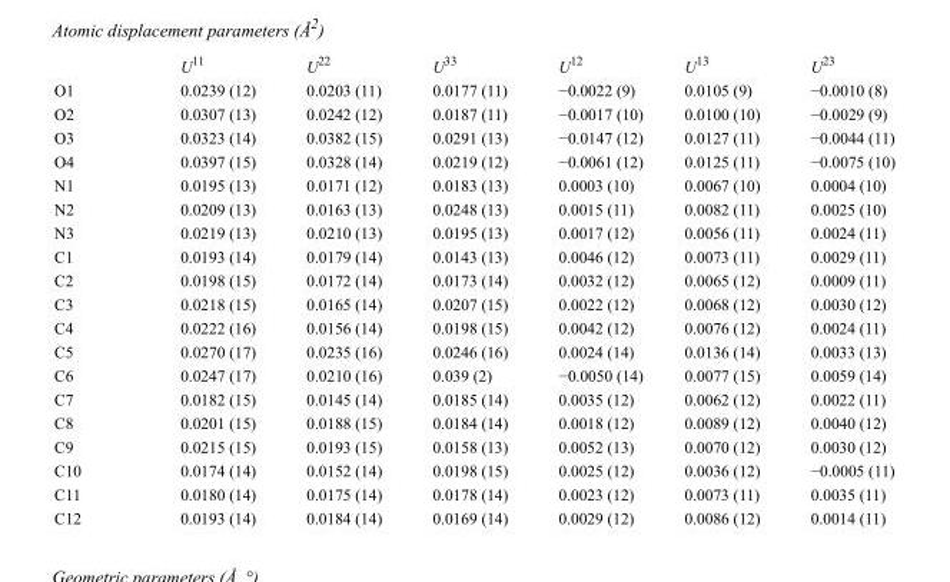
<table><thead><tr><td></td><td>U<sup>11</sup></td><td>U<sup>22</sup></td><td>U<sup>33</sup></td><td>U<sup>12</sup></td><td>U<sup>13</sup></td><td>U<sup>23</sup></td></tr></thead><tbody><tr><td>O1</td><td>0.0239 (12)</td><td>0.0203 (11)</td><td>0.0177 (11)</td><td>−0.0022 (9)</td><td>0.0105 (9)</td><td>−0.0010 (8)</td></tr><tr><td>O2</td><td>0.0307 (13)</td><td>0.0242 (12)</td><td>0.0187 (11)</td><td>−0.0017 (10)</td><td>0.0100 (10)</td><td>−0.0029 (9)</td></tr><tr><td>O3</td><td>0.0323 (14)</td><td>0.0382 (15)</td><td>0.0291 (13)</td><td>−0.0147 (12)</td><td>0.0127 (11)</td><td>−0.0044 (11)</td></tr><tr><td>O4</td><td>0.0397 (15)</td><td>0.0328 (14)</td><td>0.0219 (12)</td><td>−0.0061 (12)</td><td>0.0125 (11)</td><td>−0.0075 (10)</td></tr><tr><td>N1</td><td>0.0195 (13)</td><td>0.0171 (12)</td><td>0.0183 (13)</td><td>0.0003 (10)</td><td>0.0067 (10)</td><td>0.0004 (10)</td></tr><tr><td>N2</td><td>0.0209 (13)</td><td>0.0163 (13)</td><td>0.0248 (13)</td><td>0.0015 (11)</td><td>0.0082 (11)</td><td>0.0025 (10)</td></tr><tr><td>N3</td><td>0.0219 (13)</td><td>0.0210 (13)</td><td>0.0195 (13)</td><td>0.0017 (12)</td><td>0.0056 (11)</td><td>0.0024 (11)</td></tr><tr><td>C1</td><td>0.0193 (14)</td><td>0.0179 (14)</td><td>0.0143 (13)</td><td>0.0046 (12)</td><td>0.0073 (11)</td><td>0.0029 (11)</td></tr><tr><td>C2</td><td>0.0198 (15)</td><td>0.0172 (14)</td><td>0.0173 (14)</td><td>0.0032 (12)</td><td>0.0065 (12)</td><td>0.0009 (11)</td></tr><tr><td>C3</td><td>0.0218 (15)</td><td>0.0165 (14)</td><td>0.0207 (15)</td><td>0.0022 (12)</td><td>0.0068 (12)</td><td>0.0030 (12)</td></tr><tr><td>C4</td><td>0.0222 (16)</td><td>0.0156 (14)</td><td>0.0198 (15)</td><td>0.0042 (12)</td><td>0.0076 (12)</td><td>0.0024 (11)</td></tr><tr><td>C5</td><td>0.0270 (17)</td><td>0.0235 (16)</td><td>0.0246 (16)</td><td>0.0024 (14)</td><td>0.0136 (14)</td><td>0.0033 (13)</td></tr><tr><td>C6</td><td>0.0247 (17)</td><td>0.0210 (16)</td><td>0.039 (2)</td><td>−0.0050 (14)</td><td>0.0077 (15)</td><td>0.0059 (14)</td></tr><tr><td>C7</td><td>0.0182 (15)</td><td>0.0145 (14)</td><td>0.0185 (14)</td><td>0.0035 (12)</td><td>0.0062 (12)</td><td>0.0022 (11)</td></tr><tr><td>C8</td><td>0.0201 (15)</td><td>0.0188 (15)</td><td>0.0184 (14)</td><td>0.0018 (12)</td><td>0.0089 (12)</td><td>0.0040 (12)</td></tr><tr><td>C9</td><td>0.0215 (15)</td><td>0.0193 (15)</td><td>0.0158 (13)</td><td>0.0052 (13)</td><td>0.0070 (12)</td><td>0.0030 (12)</td></tr><tr><td>C10</td><td>0.0174 (14)</td><td>0.0152 (14)</td><td>0.0198 (15)</td><td>0.0025 (12)</td><td>0.0036 (12)</td><td>−0.0005 (11)</td></tr><tr><td>C11</td><td>0.0180 (14)</td><td>0.0175 (14)</td><td>0.0178 (14)</td><td>0.0023 (12)</td><td>0.0073 (11)</td><td>0.0035 (11)</td></tr><tr><td>C12</td><td>0.0193 (14)</td><td>0.0184 (14)</td><td>0.0169 (14)</td><td>0.0029 (12)</td><td>0.0086 (12)</td><td>0.0014 (11)</td></tr></tbody></table>